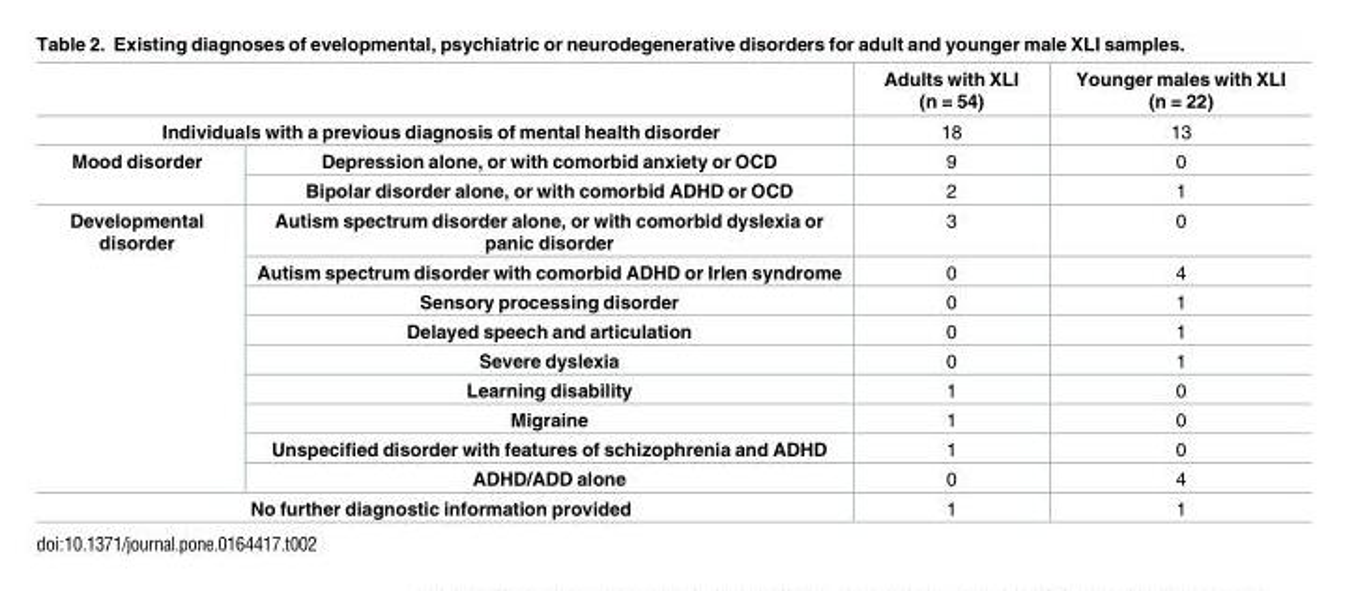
<table><thead><tr><td></td><td></td><td>Adults with XLI (n = 54)</td><td>Younger males with XLI (n = 22)</td></tr></thead><tbody><tr><td colspan="2">Individuals with a previous diagnosis of mental health disorder</td><td>18</td><td>13</td></tr><tr><td rowspan="2">Mood disorder</td><td>Depression alone, or with comorbid anxiety or OCD</td><td>9</td><td>0</td></tr><tr><td>Bipolar disorder alone, or with comorbid ADHD or OCD</td><td>2</td><td>1</td></tr><tr><td rowspan="9">Developmental disorder</td><td>Autism spectrum disorder alone, or with comorbid dyslexia or panic disorder</td><td>3</td><td>0</td></tr><tr><td>Autism spectrum disorder with comorbid ADHD or Irlen syndrome</td><td>0</td><td>4</td></tr><tr><td>Sensory processing disorder</td><td>0</td><td>1</td></tr><tr><td>Delayed speech and articulation</td><td>0</td><td>1</td></tr><tr><td>Severe dyslexia</td><td>0</td><td>1</td></tr><tr><td>Learning disability</td><td>1</td><td>0</td></tr><tr><td>Migraine</td><td>1</td><td>0</td></tr><tr><td>Unspecified disorder with features of schizophrenia and ADHD</td><td>1</td><td>0</td></tr><tr><td>ADHD/ADD alone</td><td>0</td><td>4</td></tr><tr><td colspan="2">No further diagnostic information provided</td><td>1</td><td>1</td></tr></tbody></table>